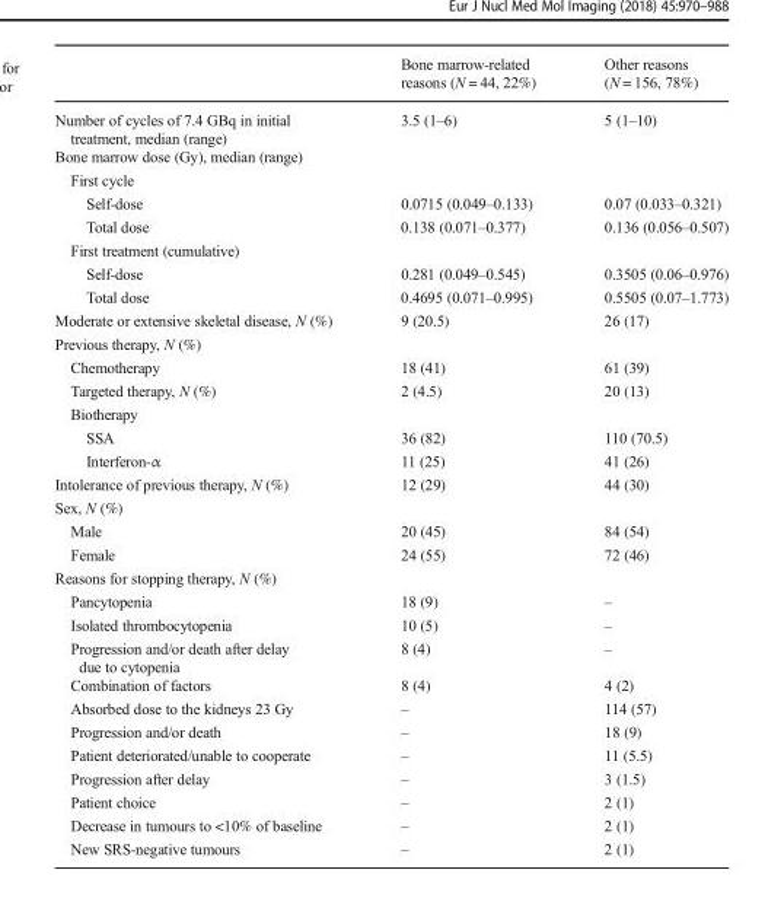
<table><thead><tr><td></td><td>Bone marrow-related reasons (N = 44, 22%)</td><td>Other reasons (N = 156, 78%)</td></tr></thead><tbody><tr><td>Number of cycles of 7.4 GBq in initial treatment, median (range)</td><td>3.5 (1–6)</td><td>5 (1–10)</td></tr><tr><td colspan="3">Bone marrow dose (Gy), median (range)</td></tr><tr><td colspan="3">First cycle</td></tr><tr><td>Self-dose</td><td>0.0715 (0.049–0.133)</td><td>0.07 (0.033–0.321)</td></tr><tr><td>Total dose</td><td>0.138 (0.071–0.377)</td><td>0.136 (0.056–0.507)</td></tr><tr><td colspan="3">First treatment (cumulative)</td></tr><tr><td>Self-dose</td><td>0.281 (0.049–0.545)</td><td>0.3505 (0.06–0.976)</td></tr><tr><td>Total dose</td><td>0.4695 (0.071–0.995)</td><td>0.5505 (0.07–1.773)</td></tr><tr><td>Moderate or extensive skeletal disease, N (%)</td><td>9 (20.5)</td><td>26 (17)</td></tr><tr><td colspan="3">Previous therapy, N (%)</td></tr><tr><td>Chemotherapy</td><td>18 (41)</td><td>61 (39)</td></tr><tr><td>Targeted therapy, N (%)</td><td>2 (4.5)</td><td>20 (13)</td></tr><tr><td colspan="3">Biotherapy</td></tr><tr><td>SSA</td><td>36 (82)</td><td>110 (70.5)</td></tr><tr><td>Interferon-α</td><td>11 (25)</td><td>41 (26)</td></tr><tr><td>Intolerance of previous therapy, N (%)</td><td>12 (29)</td><td>44 (30)</td></tr><tr><td colspan="3">Sex, N (%)</td></tr><tr><td>Male</td><td>20 (45)</td><td>84 (54)</td></tr><tr><td>Female</td><td>24 (55)</td><td>72 (46)</td></tr><tr><td colspan="3">Reasons for stopping therapy, N (%)</td></tr><tr><td>Pancytopenia</td><td>18 (9)</td><td>–</td></tr><tr><td>Isolated thrombocytopenia</td><td>10 (5)</td><td>–</td></tr><tr><td>Progression and/or death after delay due to cytopenia</td><td>8 (4)</td><td>–</td></tr><tr><td>Combination of factors</td><td>8 (4)</td><td>4 (2)</td></tr><tr><td>Absorbed dose to the kidneys 23 Gy</td><td>–</td><td>114 (57)</td></tr><tr><td>Progression and/or death</td><td>–</td><td>18 (9)</td></tr><tr><td>Patient deteriorated/unable to cooperate</td><td>–</td><td>11 (5.5)</td></tr><tr><td>Progression after delay</td><td>–</td><td>3 (1.5)</td></tr><tr><td>Patient choice</td><td>–</td><td>2 (1)</td></tr><tr><td>Decrease in tumours to &lt;10% of baseline</td><td>–</td><td>2 (1)</td></tr><tr><td>New SRS-negative tumours</td><td>–</td><td>2 (1)</td></tr></tbody></table>